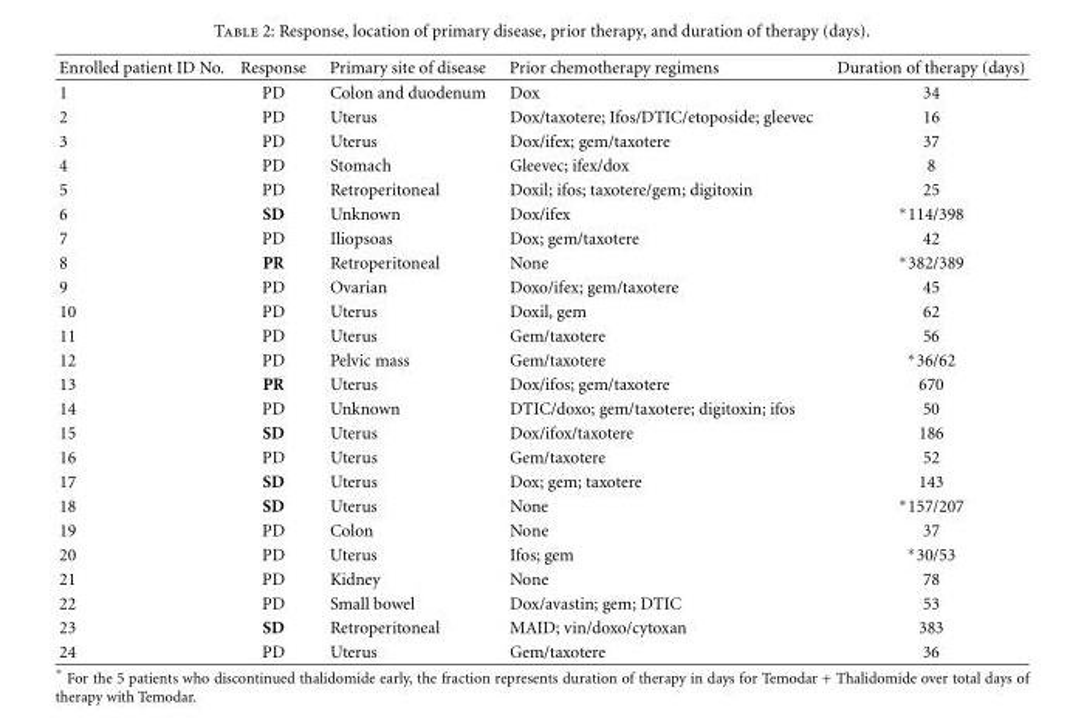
<table><thead><tr><td>Enrolled patient ID No.</td><td>Response</td><td>Primary site of disease</td><td>Prior chemotherapy regimens</td><td>Duration of therapy (days)</td></tr></thead><tbody><tr><td>1</td><td>PD</td><td>Colon and duodenum</td><td>Dox</td><td>34</td></tr><tr><td>2</td><td>PD</td><td>Uterus</td><td>Dox/taxotere; Ifos/DTIC/etoposide; gleevec</td><td>16</td></tr><tr><td>3</td><td>PD</td><td>Uterus</td><td>Dox/ifex; gem/taxotere</td><td>37</td></tr><tr><td>4</td><td>PD</td><td>Stomach</td><td>Gleevec; ifex/dox</td><td>8</td></tr><tr><td>5</td><td>PD</td><td>Retroperitoneal</td><td>Doxil; ifos; taxotere/gem; digitoxin</td><td>25</td></tr><tr><td>6</td><td>SD</td><td>Unknown</td><td>Dox/ifex</td><td>∗114/398</td></tr><tr><td>7</td><td>PD</td><td>Iliopsoas</td><td>Dox; gem/taxotere</td><td>42</td></tr><tr><td>8</td><td>PR</td><td>Retroperitoneal</td><td>None</td><td>∗382/389</td></tr><tr><td>9</td><td>PD</td><td>Ovarian</td><td>Doxo/ifex; gem/taxotere</td><td>45</td></tr><tr><td>10</td><td>PD</td><td>Uterus</td><td>Doxil, gem</td><td>62</td></tr><tr><td>11</td><td>PD</td><td>Uterus</td><td>Gem/taxotere</td><td>56</td></tr><tr><td>12</td><td>PD</td><td>Pelvic mass</td><td>Gem/taxotere</td><td>∗36/62</td></tr><tr><td>13</td><td>PR</td><td>Uterus</td><td>Dox/ifos; gem/taxotere</td><td>670</td></tr><tr><td>14</td><td>PD</td><td>Unknown</td><td>DTIC/doxo; gem/taxotere; digitoxin; ifos</td><td>50</td></tr><tr><td>15</td><td>SD</td><td>Uterus</td><td>Dox/ifox/taxotere</td><td>186</td></tr><tr><td>16</td><td>PD</td><td>Uterus</td><td>Gem/taxotere</td><td>52</td></tr><tr><td>17</td><td>SD</td><td>Uterus</td><td>Dox; gem; taxotere</td><td>143</td></tr><tr><td>18</td><td>SD</td><td>Uterus</td><td>None</td><td>∗157/207</td></tr><tr><td>19</td><td>PD</td><td>Colon</td><td>None</td><td>37</td></tr><tr><td>20</td><td>PD</td><td>Uterus</td><td>Ifos; gem</td><td>∗30/53</td></tr><tr><td>21</td><td>PD</td><td>Kidney</td><td>None</td><td>78</td></tr><tr><td>22</td><td>PD</td><td>Small bowel</td><td>Dox/avastin; gem; DTIC</td><td>53</td></tr><tr><td>23</td><td>SD</td><td>Retroperitoneal</td><td>MAID; vin/doxo/cytoxan</td><td>383</td></tr><tr><td>24</td><td>PD</td><td>Uterus</td><td>Gem/taxotere</td><td>36</td></tr></tbody></table>